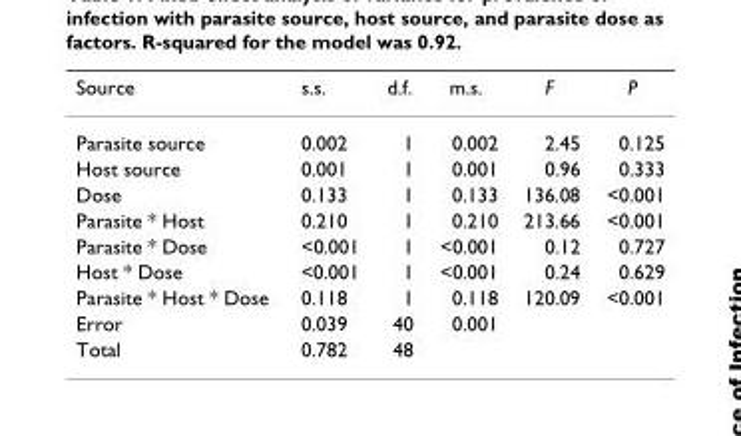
<table><thead><tr><td>Source</td><td>s.s.</td><td>d.f.</td><td>m.s.</td><td>F</td><td>P</td></tr></thead><tbody><tr><td>Parasite source</td><td>0.002</td><td>1</td><td>0.002</td><td>2.45</td><td>0.125</td></tr><tr><td>Host source</td><td>0.001</td><td>1</td><td>0.001</td><td>0.96</td><td>0.333</td></tr><tr><td>Dose</td><td>0.133</td><td>1</td><td>0.133</td><td>136.08</td><td>&lt;0.001</td></tr><tr><td>Parasite * Host</td><td>0.210</td><td>1</td><td>0.210</td><td>213.66</td><td>&lt;0.001</td></tr><tr><td>Parasite * Dose</td><td>&lt;0.001</td><td>1</td><td>&lt;0.001</td><td>0.12</td><td>0.727</td></tr><tr><td>Host * Dose</td><td>&lt;0.001</td><td>1</td><td>&lt;0.001</td><td>0.24</td><td>0.629</td></tr><tr><td>Parasite * Host * Dose</td><td>0.118</td><td>1</td><td>0.118</td><td>120.09</td><td>&lt;0.001</td></tr><tr><td>Error</td><td>0.039</td><td>40</td><td>0.001</td><td></td><td></td></tr><tr><td>Total</td><td>0.782</td><td>48</td><td></td><td></td><td></td></tr></tbody></table>